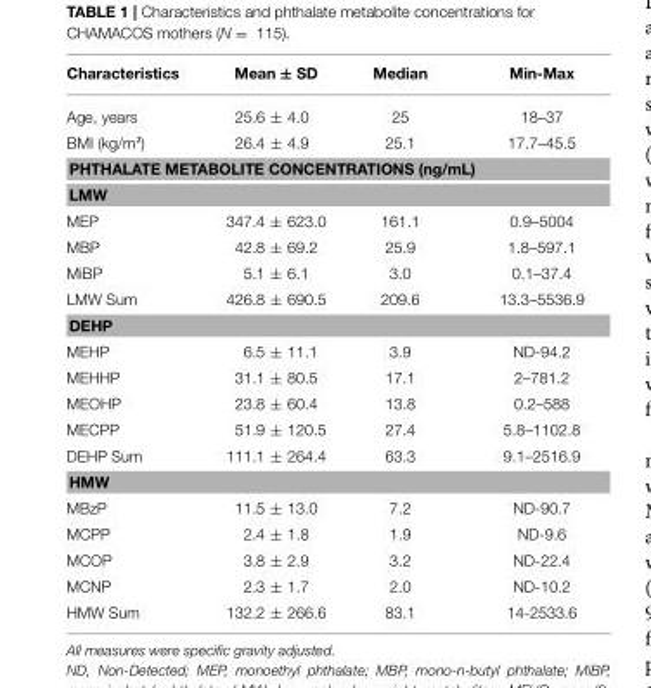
<table><thead><tr><td>Characteristics</td><td>Mean ± SD</td><td>Median</td><td>Min-Max</td></tr></thead><tbody><tr><td>Age, years</td><td>25.6 ± 4.0</td><td>25</td><td>18–37</td></tr><tr><td>BMI (kg/m²)</td><td>26.4 ± 4.9</td><td>25.1</td><td>17.7–45.5</td></tr><tr><td colspan="4">PHTHALATE METABOLITE CONCENTRATIONS (ng/mL)</td></tr><tr><td colspan="4">LMW</td></tr><tr><td>MEP</td><td>347.4 ± 623.0</td><td>161.1</td><td>0.9–5004</td></tr><tr><td>MBP</td><td>42.8 ± 69.2</td><td>25.9</td><td>1.8–597.1</td></tr><tr><td>MiBP</td><td>5.1 ± 6.1</td><td>3.0</td><td>0.1–37.4</td></tr><tr><td>LMW Sum</td><td>426.8 ± 690.5</td><td>209.6</td><td>13.3–5536.9</td></tr><tr><td colspan="4">DEHP</td></tr><tr><td>MEHP</td><td>6.5 ± 11.1</td><td>3.9</td><td>ND-94.2</td></tr><tr><td>MEHHP</td><td>31.1 ± 80.5</td><td>17.1</td><td>2–781.2</td></tr><tr><td>MEOHP</td><td>23.8 ± 60.4</td><td>13.8</td><td>0.2–588</td></tr><tr><td>MECPP</td><td>51.9 ± 120.5</td><td>27.4</td><td>5.8–1102.8</td></tr><tr><td>DEHP Sum</td><td>111.1 ± 264.4</td><td>63.3</td><td>9.1–2516.9</td></tr><tr><td colspan="4">HMW</td></tr><tr><td>MBzP</td><td>11.5 ± 13.0</td><td>7.2</td><td>ND-90.7</td></tr><tr><td>MCPP</td><td>2.4 ± 1.8</td><td>1.9</td><td>ND-9.6</td></tr><tr><td>MCOP</td><td>3.8 ± 2.9</td><td>3.2</td><td>ND-22.4</td></tr><tr><td>MCNP</td><td>2.3 ± 1.7</td><td>2.0</td><td>ND-10.2</td></tr><tr><td>HMW Sum</td><td>132.2 ± 266.6</td><td>83.1</td><td>14-2533.6</td></tr></tbody></table>